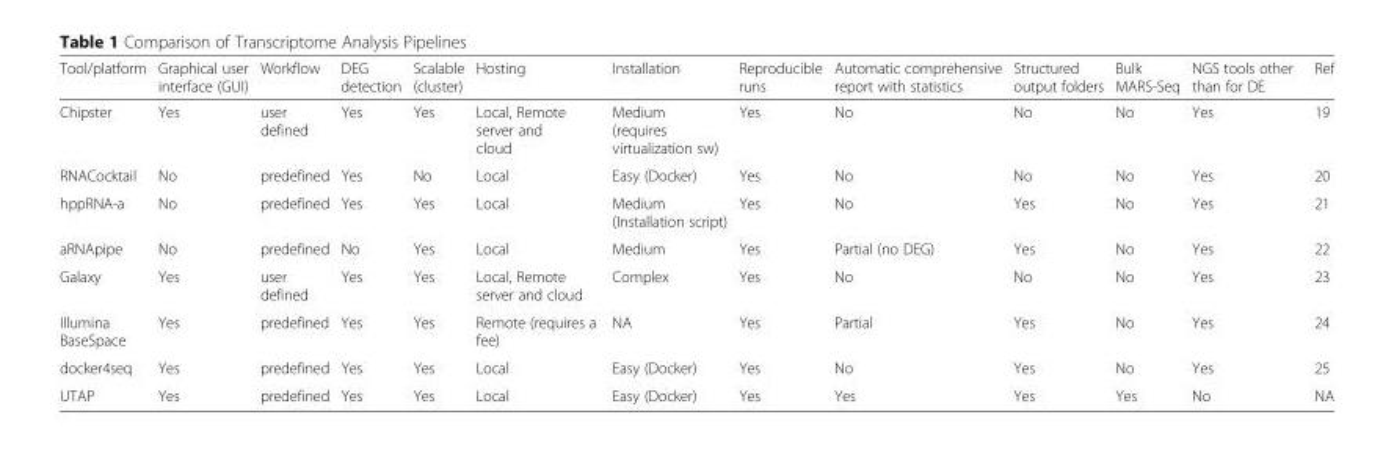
<table><thead><tr><td>Tool/platform</td><td>Graphical user interface (GUI)</td><td>Workflow</td><td>DEG detection</td><td>Scalable (cluster)</td><td>Hosting</td><td>Installation</td><td>Reproducible runs</td><td>Automatic comprehensive report with statistics</td><td>Structured output folders</td><td>Bulk MARS-Seq</td><td>NGS tools other than for DE</td><td>Ref</td></tr></thead><tbody><tr><td>Chipster</td><td>Yes</td><td>user defined</td><td>Yes</td><td>Yes</td><td>Local, Remote server and cloud</td><td>Medium (requires virtualization sw)</td><td>Yes</td><td>No</td><td>No</td><td>No</td><td>Yes</td><td>19</td></tr><tr><td>RNACocktail</td><td>No</td><td>predefined</td><td>Yes</td><td>No</td><td>Local</td><td>Easy (Docker)</td><td>Yes</td><td>No</td><td>No</td><td>No</td><td>Yes</td><td>20</td></tr><tr><td>hppRNA-a</td><td>No</td><td>predefined</td><td>Yes</td><td>Yes</td><td>Local</td><td>Medium (Installation script)</td><td>Yes</td><td>No</td><td>Yes</td><td>No</td><td>Yes</td><td>21</td></tr><tr><td>aRNApipe</td><td>No</td><td>predefined</td><td>No</td><td>Yes</td><td>Local</td><td>Medium</td><td>Yes</td><td>Partial (no DEG)</td><td>Yes</td><td>No</td><td>Yes</td><td>22</td></tr><tr><td>Galaxy</td><td>Yes</td><td>user defined</td><td>Yes</td><td>Yes</td><td>Local, Remote server and cloud</td><td>Complex</td><td>Yes</td><td>No</td><td>No</td><td>No</td><td>Yes</td><td>23</td></tr><tr><td>Illumina BaseSpace</td><td>Yes</td><td>predefined</td><td>Yes</td><td>Yes</td><td>Remote (requires a fee)</td><td>NA</td><td>Yes</td><td>Partial</td><td>Yes</td><td>No</td><td>Yes</td><td>24</td></tr><tr><td>docker4seq</td><td>Yes</td><td>predefined</td><td>Yes</td><td>Yes</td><td>Local</td><td>Easy (Docker)</td><td>Yes</td><td>No</td><td>Yes</td><td>No</td><td>Yes</td><td>25</td></tr><tr><td>UTAP</td><td>Yes</td><td>predefined</td><td>Yes</td><td>Yes</td><td>Local</td><td>Easy (Docker)</td><td>Yes</td><td>Yes</td><td>Yes</td><td>Yes</td><td>No</td><td>NA</td></tr></tbody></table>